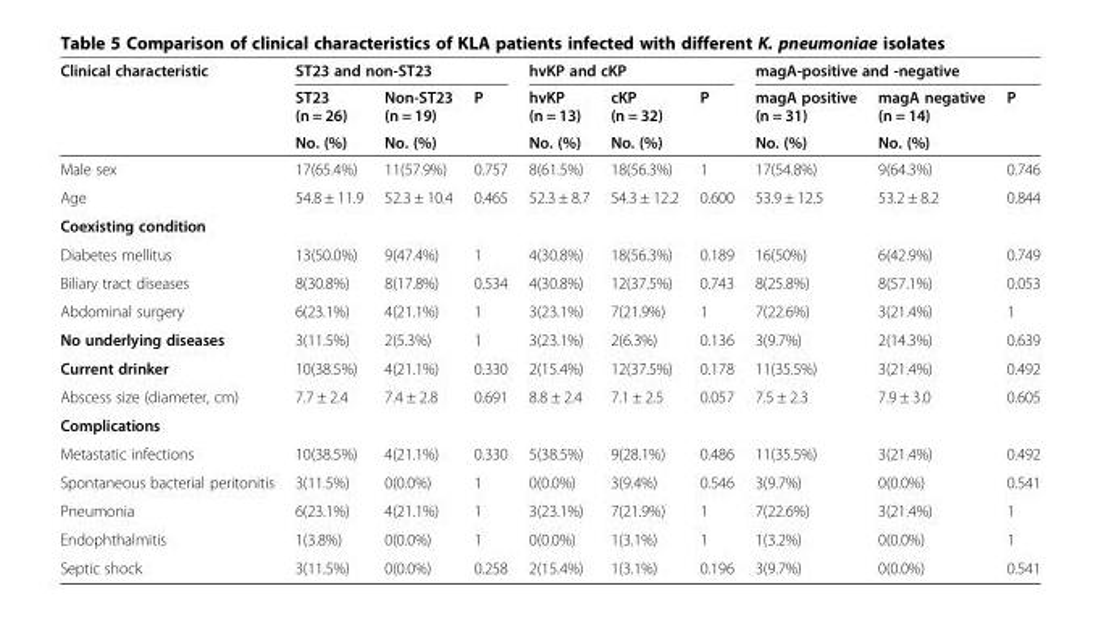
<table><thead><tr><td rowspan="3">Clinical characteristic</td><td colspan="3">ST23 and non-ST23</td><td colspan="3">hvKP and cKP</td><td colspan="3">magA-positive and -negative</td></tr><tr><td rowspan="2">ST23 (n = 26) No. (%)</td><td rowspan="2">Non-ST23 (n = 19) No. (%)</td><td rowspan="2">P</td><td rowspan="2">hvKP (n = 13) No. (%)</td><td rowspan="2">cKP (n = 32) No. (%)</td><td rowspan="2">P</td><td rowspan="2">magA positive (n = 31) No. (%)</td><td rowspan="2">magA negative (n = 14) No. (%)</td><td rowspan="2">P</td></tr><tr></tr></thead><tbody><tr><td>Male sex</td><td>17(65.4%)</td><td>11(57.9%)</td><td>0.757</td><td>8(61.5%)</td><td>18(56.3%)</td><td>1</td><td>17(54.8%)</td><td>9(64.3%)</td><td>0.746</td></tr><tr><td>Age</td><td>54.8 ± 11.9</td><td>52.3 ± 10.4</td><td>0.465</td><td>52.3 ± 8.7</td><td>54.3 ± 12.2</td><td>0.600</td><td>53.9 ± 12.5</td><td>53.2 ± 8.2</td><td>0.844</td></tr><tr><td colspan="10">Coexisting condition</td></tr><tr><td>Diabetes mellitus</td><td>13(50.0%)</td><td>9(47.4%)</td><td>1</td><td>4(30.8%)</td><td>18(56.3%)</td><td>0.189</td><td>16(50%)</td><td>6(42.9%)</td><td>0.749</td></tr><tr><td>Biliary tract diseases</td><td>8(30.8%)</td><td>8(17.8%)</td><td>0.534</td><td>4(30.8%)</td><td>12(37.5%)</td><td>0.743</td><td>8(25.8%)</td><td>8(57.1%)</td><td>0.053</td></tr><tr><td>Abdominal surgery</td><td>6(23.1%)</td><td>4(21.1%)</td><td>1</td><td>3(23.1%)</td><td>7(21.9%)</td><td>1</td><td>7(22.6%)</td><td>3(21.4%)</td><td>1</td></tr><tr><td>No underlying diseases</td><td>3(11.5%)</td><td>2(5.3%)</td><td>1</td><td>3(23.1%)</td><td>2(6.3%)</td><td>0.136</td><td>3(9.7%)</td><td>2(14.3%)</td><td>0.639</td></tr><tr><td>Current drinker</td><td>10(38.5%)</td><td>4(21.1%)</td><td>0.330</td><td>2(15.4%)</td><td>12(37.5%)</td><td>0.178</td><td>11(35.5%)</td><td>3(21.4%)</td><td>0.492</td></tr><tr><td>Abscess size (diameter, cm)</td><td>7.7 ± 2.4</td><td>7.4 ± 2.8</td><td>0.691</td><td>8.8 ± 2.4</td><td>7.1 ± 2.5</td><td>0.057</td><td>7.5 ± 2.3</td><td>7.9 ± 3.0</td><td>0.605</td></tr><tr><td colspan="10">Complications</td></tr><tr><td>Metastatic infections</td><td>10(38.5%)</td><td>4(21.1%)</td><td>0.330</td><td>5(38.5%)</td><td>9(28.1%)</td><td>0.486</td><td>11(35.5%)</td><td>3(21.4%)</td><td>0.492</td></tr><tr><td>Spontaneous bacterial peritonitis</td><td>3(11.5%)</td><td>0(0.0%)</td><td>1</td><td>0(0.0%)</td><td>3(9.4%)</td><td>0.546</td><td>3(9.7%)</td><td>0(0.0%)</td><td>0.541</td></tr><tr><td>Pneumonia</td><td>6(23.1%)</td><td>4(21.1%)</td><td>1</td><td>3(23.1%)</td><td>7(21.9%)</td><td>1</td><td>7(22.6%)</td><td>3(21.4%)</td><td>1</td></tr><tr><td>Endophthalmitis</td><td>1(3.8%)</td><td>0(0.0%)</td><td>1</td><td>0(0.0%)</td><td>1(3.1%)</td><td>1</td><td>1(3.2%)</td><td>0(0.0%)</td><td>1</td></tr><tr><td>Septic shock</td><td>3(11.5%)</td><td>0(0.0%)</td><td>0.258</td><td>2(15.4%)</td><td>1(3.1%)</td><td>0.196</td><td>3(9.7%)</td><td>0(0.0%)</td><td>0.541</td></tr></tbody></table>